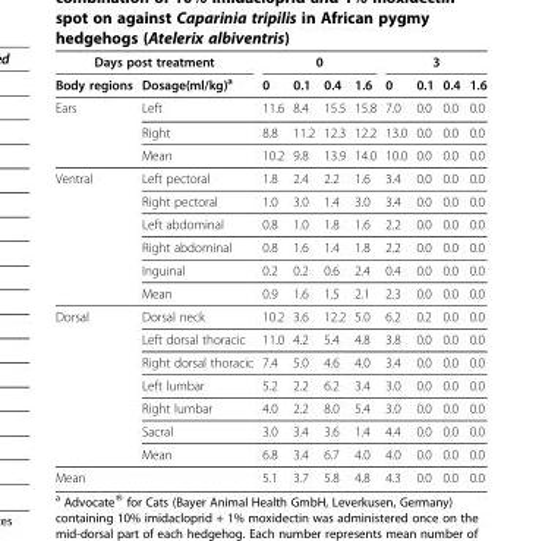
<table><thead><tr><td colspan="2">Days post treatment</td><td colspan="4">0</td><td colspan="4">3</td></tr><tr><td>Body regions</td><td>Dosage(ml/kg)<sup>a</sup></td><td>0</td><td>0.1</td><td>0.4</td><td>1.6</td><td>0</td><td>0.1</td><td>0.4</td><td>1.6</td></tr></thead><tbody><tr><td rowspan="3">Ears</td><td>Left</td><td>11.6</td><td>8.4</td><td>15.5</td><td>15.8</td><td>7.0</td><td>0.0</td><td>0.0</td><td>0.0</td></tr><tr><td>Right</td><td>8.8</td><td>11.2</td><td>12.3</td><td>12.2</td><td>13.0</td><td>0.0</td><td>0.0</td><td>0.0</td></tr><tr><td>Mean</td><td>10.2</td><td>9.8</td><td>13.9</td><td>14.0</td><td>10.0</td><td>0.0</td><td>0.0</td><td>0.0</td></tr><tr><td rowspan="6">Ventral</td><td>Left pectoral</td><td>1.8</td><td>2.4</td><td>2.2</td><td>1.6</td><td>3.4</td><td>0.0</td><td>0.0</td><td>0.0</td></tr><tr><td>Right pectoral</td><td>1.0</td><td>3.0</td><td>1.4</td><td>3.0</td><td>3.4</td><td>0.0</td><td>0.0</td><td>0.0</td></tr><tr><td>Left abdominal</td><td>0.8</td><td>1.0</td><td>1.8</td><td>1.6</td><td>2.2</td><td>0.0</td><td>0.0</td><td>0.0</td></tr><tr><td>Right abdominal</td><td>0.8</td><td>1.6</td><td>1.4</td><td>1.8</td><td>2.2</td><td>0.0</td><td>0.0</td><td>0.0</td></tr><tr><td>Inguinal</td><td>0.2</td><td>0.2</td><td>0.6</td><td>2.4</td><td>0.4</td><td>0.0</td><td>0.0</td><td>0.0</td></tr><tr><td>Mean</td><td>0.9</td><td>1.6</td><td>1.5</td><td>2.1</td><td>2.3</td><td>0.0</td><td>0.0</td><td>0.0</td></tr><tr><td rowspan="7">Dorsal</td><td>Dorsal neck</td><td>10.2</td><td>3.6</td><td>12.2</td><td>5.0</td><td>6.2</td><td>0.2</td><td>0.0</td><td>0.0</td></tr><tr><td>Left dorsal thoracic</td><td>11.0</td><td>4.2</td><td>5.4</td><td>4.8</td><td>3.8</td><td>0.0</td><td>0.0</td><td>0.0</td></tr><tr><td>Right dorsal thoracic</td><td>7.4</td><td>5.0</td><td>4.6</td><td>4.0</td><td>3.4</td><td>0.0</td><td>0.0</td><td>0.0</td></tr><tr><td>Left lumbar</td><td>5.2</td><td>2.2</td><td>6.2</td><td>3.4</td><td>3.0</td><td>0.0</td><td>0.0</td><td>0.0</td></tr><tr><td>Right lumbar</td><td>4.0</td><td>2.2</td><td>8.0</td><td>5.4</td><td>3.0</td><td>0.0</td><td>0.0</td><td>0.0</td></tr><tr><td>Sacral</td><td>3.0</td><td>3.4</td><td>3.6</td><td>1.4</td><td>4.4</td><td>0.0</td><td>0.0</td><td>0.0</td></tr><tr><td>Mean</td><td>6.8</td><td>3.4</td><td>6.7</td><td>4.0</td><td>4.0</td><td>0.0</td><td>0.0</td><td>0.0</td></tr><tr><td>Mean</td><td></td><td>5.1</td><td>3.7</td><td>5.8</td><td>4.8</td><td>4.3</td><td>0.0</td><td>0.0</td><td>0.0</td></tr></tbody></table>